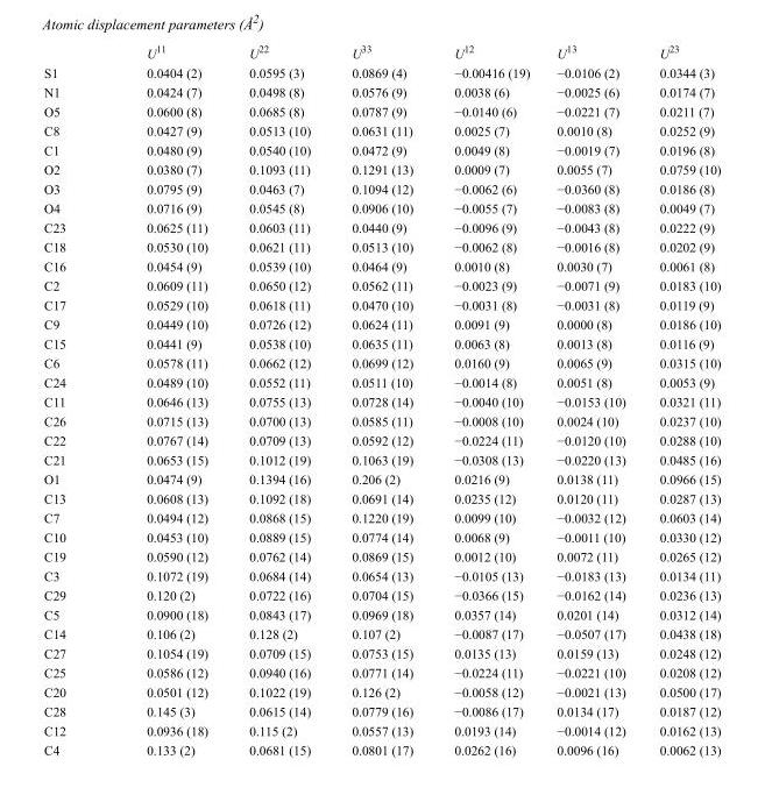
<table><thead><tr><td></td><td>U<sup>11</sup></td><td>U<sup>22</sup></td><td>U<sup>33</sup></td><td>U<sup>12</sup></td><td>U<sup>13</sup></td><td>U<sup>23</sup></td></tr></thead><tbody><tr><td>S1</td><td>0.0404 (2)</td><td>0.0595 (3)</td><td>0.0869 (4)</td><td>−0.00416 (19)</td><td>−0.0106 (2)</td><td>0.0344 (3)</td></tr><tr><td>N1</td><td>0.0424 (7)</td><td>0.0498 (8)</td><td>0.0576 (9)</td><td>0.0038 (6)</td><td>−0.0025 (6)</td><td>0.0174 (7)</td></tr><tr><td>O5</td><td>0.0600 (8)</td><td>0.0685 (8)</td><td>0.0787 (9)</td><td>−0.0140 (6)</td><td>−0.0221 (7)</td><td>0.0211 (7)</td></tr><tr><td>C8</td><td>0.0427 (9)</td><td>0.0513 (10)</td><td>0.0631 (11)</td><td>0.0025 (7)</td><td>0.0010 (8)</td><td>0.0252 (9)</td></tr><tr><td>C1</td><td>0.0480 (9)</td><td>0.0540 (10)</td><td>0.0472 (9)</td><td>0.0049 (8)</td><td>−0.0019 (7)</td><td>0.0196 (8)</td></tr><tr><td>O2</td><td>0.0380 (7)</td><td>0.1093 (11)</td><td>0.1291 (13)</td><td>0.0009 (7)</td><td>0.0055 (7)</td><td>0.0759 (10)</td></tr><tr><td>O3</td><td>0.0795 (9)</td><td>0.0463 (7)</td><td>0.1094 (12)</td><td>−0.0062 (6)</td><td>−0.0360 (8)</td><td>0.0186 (8)</td></tr><tr><td>O4</td><td>0.0716 (9)</td><td>0.0545 (8)</td><td>0.0906 (10)</td><td>−0.0055 (7)</td><td>−0.0083 (8)</td><td>0.0049 (7)</td></tr><tr><td>C23</td><td>0.0625 (11)</td><td>0.0603 (11)</td><td>0.0440 (9)</td><td>−0.0096 (9)</td><td>−0.0043 (8)</td><td>0.0222 (9)</td></tr><tr><td>C18</td><td>0.0530 (10)</td><td>0.0621 (11)</td><td>0.0513 (10)</td><td>−0.0062 (8)</td><td>−0.0016 (8)</td><td>0.0202 (9)</td></tr><tr><td>C16</td><td>0.0454 (9)</td><td>0.0539 (10)</td><td>0.0464 (9)</td><td>0.0010 (8)</td><td>0.0030 (7)</td><td>0.0061 (8)</td></tr><tr><td>C2</td><td>0.0609 (11)</td><td>0.0650 (12)</td><td>0.0562 (11)</td><td>−0.0023 (9)</td><td>−0.0071 (9)</td><td>0.0183 (10)</td></tr><tr><td>C17</td><td>0.0529 (10)</td><td>0.0618 (11)</td><td>0.0470 (10)</td><td>−0.0031 (8)</td><td>−0.0031 (8)</td><td>0.0119 (9)</td></tr><tr><td>C9</td><td>0.0449 (10)</td><td>0.0726 (12)</td><td>0.0624 (11)</td><td>0.0091 (9)</td><td>0.0000 (8)</td><td>0.0186 (10)</td></tr><tr><td>C15</td><td>0.0441 (9)</td><td>0.0538 (10)</td><td>0.0635 (11)</td><td>0.0063 (8)</td><td>0.0013 (8)</td><td>0.0116 (9)</td></tr><tr><td>C6</td><td>0.0578 (11)</td><td>0.0662 (12)</td><td>0.0699 (12)</td><td>0.0160 (9)</td><td>0.0065 (9)</td><td>0.0315 (10)</td></tr><tr><td>C24</td><td>0.0489 (10)</td><td>0.0552 (11)</td><td>0.0511 (10)</td><td>−0.0014 (8)</td><td>0.0051 (8)</td><td>0.0053 (9)</td></tr><tr><td>C11</td><td>0.0646 (13)</td><td>0.0755 (13)</td><td>0.0728 (14)</td><td>−0.0040 (10)</td><td>−0.0153 (10)</td><td>0.0321 (11)</td></tr><tr><td>C26</td><td>0.0715 (13)</td><td>0.0700 (13)</td><td>0.0585 (11)</td><td>−0.0008 (10)</td><td>0.0024 (10)</td><td>0.0237 (10)</td></tr><tr><td>C22</td><td>0.0767 (14)</td><td>0.0709 (13)</td><td>0.0592 (12)</td><td>−0.0224 (11)</td><td>−0.0120 (10)</td><td>0.0288 (10)</td></tr><tr><td>C21</td><td>0.0653 (15)</td><td>0.1012 (19)</td><td>0.1063 (19)</td><td>−0.0308 (13)</td><td>−0.0220 (13)</td><td>0.0485 (16)</td></tr><tr><td>O1</td><td>0.0474 (9)</td><td>0.1394 (16)</td><td>0.206 (2)</td><td>0.0216 (9)</td><td>0.0138 (11)</td><td>0.0966 (15)</td></tr><tr><td>C13</td><td>0.0608 (13)</td><td>0.1092 (18)</td><td>0.0691 (14)</td><td>0.0235 (12)</td><td>0.0120 (11)</td><td>0.0287 (13)</td></tr><tr><td>C7</td><td>0.0494 (12)</td><td>0.0868 (15)</td><td>0.1220 (19)</td><td>0.0099 (10)</td><td>−0.0032 (12)</td><td>0.0603 (14)</td></tr><tr><td>C10</td><td>0.0453 (10)</td><td>0.0889 (15)</td><td>0.0774 (14)</td><td>0.0068 (9)</td><td>−0.0011 (10)</td><td>0.0330 (12)</td></tr><tr><td>C19</td><td>0.0590 (12)</td><td>0.0762 (14)</td><td>0.0869 (15)</td><td>0.0012 (10)</td><td>0.0072 (11)</td><td>0.0265 (12)</td></tr><tr><td>C3</td><td>0.1072 (19)</td><td>0.0684 (14)</td><td>0.0654 (13)</td><td>−0.0105 (13)</td><td>−0.0183 (13)</td><td>0.0134 (11)</td></tr><tr><td>C29</td><td>0.120 (2)</td><td>0.0722 (16)</td><td>0.0704 (15)</td><td>−0.0366 (15)</td><td>−0.0162 (14)</td><td>0.0236 (13)</td></tr><tr><td>C5</td><td>0.0900 (18)</td><td>0.0843 (17)</td><td>0.0969 (18)</td><td>0.0357 (14)</td><td>0.0201 (14)</td><td>0.0312 (14)</td></tr><tr><td>C14</td><td>0.106 (2)</td><td>0.128 (2)</td><td>0.107 (2)</td><td>−0.0087 (17)</td><td>−0.0507 (17)</td><td>0.0438 (18)</td></tr><tr><td>C27</td><td>0.1054 (19)</td><td>0.0709 (15)</td><td>0.0753 (15)</td><td>0.0135 (13)</td><td>0.0159 (13)</td><td>0.0248 (12)</td></tr><tr><td>C25</td><td>0.0586 (12)</td><td>0.0940 (16)</td><td>0.0771 (14)</td><td>−0.0224 (11)</td><td>−0.0221 (10)</td><td>0.0208 (12)</td></tr><tr><td>C20</td><td>0.0501 (12)</td><td>0.1022 (19)</td><td>0.126 (2)</td><td>−0.0058 (12)</td><td>−0.0021 (13)</td><td>0.0500 (17)</td></tr><tr><td>C28</td><td>0.145 (3)</td><td>0.0615 (14)</td><td>0.0779 (16)</td><td>−0.0086 (17)</td><td>0.0134 (17)</td><td>0.0187 (12)</td></tr><tr><td>C12</td><td>0.0936 (18)</td><td>0.115 (2)</td><td>0.0557 (13)</td><td>0.0193 (14)</td><td>−0.0014 (12)</td><td>0.0162 (13)</td></tr><tr><td>C4</td><td>0.133 (2)</td><td>0.0681 (15)</td><td>0.0801 (17)</td><td>0.0262 (16)</td><td>0.0096 (16)</td><td>0.0062 (13)</td></tr></tbody></table>